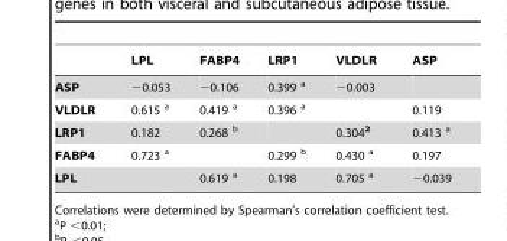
<table><thead><tr><td></td><td>LPL</td><td>FABP4</td><td>LRP1</td><td>VLDLR</td><td>ASP</td></tr></thead><tbody><tr><td>ASP</td><td>−0.053</td><td>−0.106</td><td>0.399 a</td><td>−0.003</td><td></td></tr><tr><td>VLDLR</td><td>0.615 a</td><td>0.419 a</td><td>0.396 a</td><td></td><td>0.119</td></tr><tr><td>LRP1</td><td>0.182</td><td>0.268 b</td><td></td><td>0.304<sup>2</sup></td><td>0.413 a</td></tr><tr><td>FABP4</td><td>0.723 a</td><td></td><td>0.299 b</td><td>0.430 a</td><td>0.197</td></tr><tr><td>LPL</td><td></td><td>0.619 a</td><td>0.198</td><td>0.705 a</td><td>−0.039</td></tr></tbody></table>